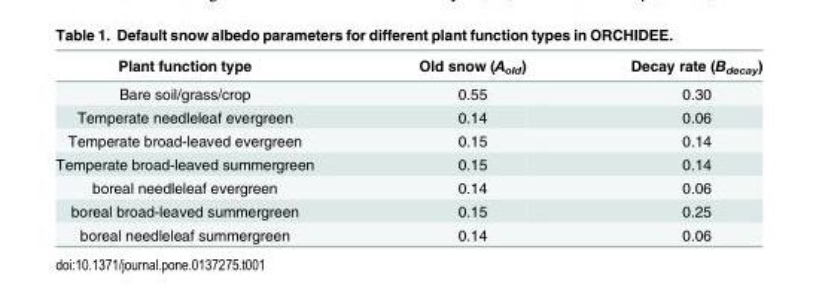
<table><thead><tr><td>Plant function type</td><td>Old snow (A<sub>old</sub>)</td><td>Decay rate (B<sub>decay</sub>)</td></tr></thead><tbody><tr><td>Bare soil/grass/crop</td><td>0.55</td><td>0.30</td></tr><tr><td>Temperate needleleaf evergreen</td><td>0.14</td><td>0.06</td></tr><tr><td>Temperate broad-leaved evergreen</td><td>0.15</td><td>0.14</td></tr><tr><td>Temperate broad-leaved summergreen</td><td>0.15</td><td>0.14</td></tr><tr><td>boreal needleleaf evergreen</td><td>0.14</td><td>0.06</td></tr><tr><td>boreal broad-leaved summergreen</td><td>0.15</td><td>0.25</td></tr><tr><td>boreal needleleaf summergreen</td><td>0.14</td><td>0.06</td></tr></tbody></table>